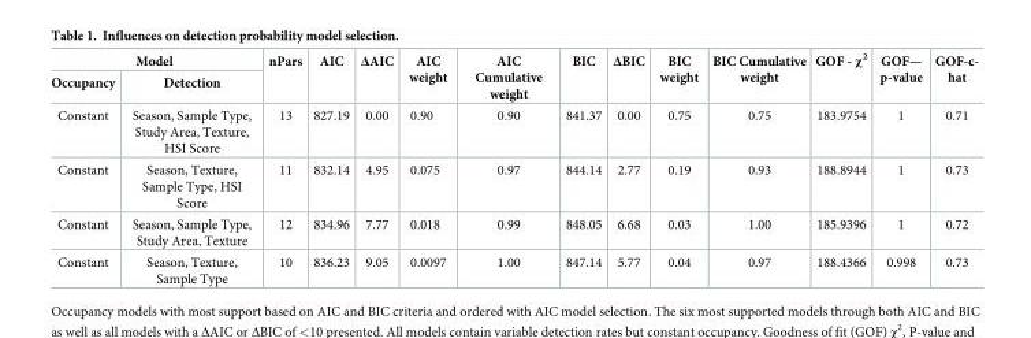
<table><thead><tr><td colspan="2">Model</td><td rowspan="2">nPars</td><td rowspan="2">AIC</td><td rowspan="2">ΔAIC</td><td rowspan="2">AIC weight</td><td rowspan="2">AIC Cumulative weight</td><td rowspan="2">BIC</td><td rowspan="2">ΔBIC</td><td rowspan="2">BIC weight</td><td rowspan="2">BIC Cumulative weight</td><td rowspan="2">GOF - χ<sup>2</sup></td><td rowspan="2">GOF— p-value</td><td rowspan="2">GOF-c- hat</td></tr><tr><td>Occupancy</td><td>Detection</td></tr></thead><tbody><tr><td>Constant</td><td>Season, Sample Type, Study Area, Texture, HSI Score</td><td>13</td><td>827.19</td><td>0.00</td><td>0.90</td><td>0.90</td><td>841.37</td><td>0.00</td><td>0.75</td><td>0.75</td><td>183.9754</td><td>1</td><td>0.71</td></tr><tr><td>Constant</td><td>Season, Texture, Sample Type, HSI Score</td><td>11</td><td>832.14</td><td>4.95</td><td>0.075</td><td>0.97</td><td>844.14</td><td>2.77</td><td>0.19</td><td>0.93</td><td>188.8944</td><td>1</td><td>0.73</td></tr><tr><td>Constant</td><td>Season, Sample Type, Study Area, Texture</td><td>12</td><td>834.96</td><td>7.77</td><td>0.018</td><td>0.99</td><td>848.05</td><td>6.68</td><td>0.03</td><td>1.00</td><td>185.9396</td><td>1</td><td>0.72</td></tr><tr><td>Constant</td><td>Season, Texture, Sample Type</td><td>10</td><td>836.23</td><td>9.05</td><td>0.0097</td><td>1.00</td><td>847.14</td><td>5.77</td><td>0.04</td><td>0.97</td><td>188.4366</td><td>0.998</td><td>0.73</td></tr></tbody></table>